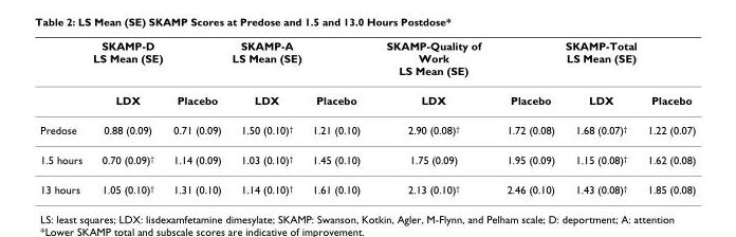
<table><thead><tr><td></td><td>SKAMP-D LS Mean (SE)</td><td></td><td>SKAMP-A LS Mean (SE)</td><td></td><td>SKAMP-Quality of Work LS Mean (SE)</td><td></td><td>SKAMP-Total LS Mean (SE)</td><td></td></tr></thead><tbody><tr><td></td><td>LDX</td><td>Placebo</td><td>LDX</td><td>Placebo</td><td>LDX</td><td>Placebo</td><td>LDX</td><td>Placebo</td></tr><tr><td>Predose</td><td>0.88 (0.09)</td><td>0.71 (0.09)</td><td>1.50 (0.10)<sup>†</sup></td><td>1.21 (0.10)</td><td>2.90 (0.08)<sup>†</sup></td><td>1.72 (0.08)</td><td>1.68 (0.07)<sup>†</sup></td><td>1.22 (0.07)</td></tr><tr><td>1.5 hours</td><td>0.70 (0.09)<sup>†</sup></td><td>1.14 (0.09)</td><td>1.03 (0.10)<sup>†</sup></td><td>1.45 (0.10)</td><td>1.75 (0.09)</td><td>1.95 (0.09)</td><td>1.15 (0.08)<sup>†</sup></td><td>1.62 (0.08)</td></tr><tr><td>13 hours</td><td>1.05 (0.10)<sup>†</sup></td><td>1.31 (0.10)</td><td>1.14 (0.10)<sup>†</sup></td><td>1.61 (0.10)</td><td>2.13 (0.10)<sup>†</sup></td><td>2.46 (0.10)</td><td>1.43 (0.08)<sup>†</sup></td><td>1.85 (0.08)</td></tr></tbody></table>